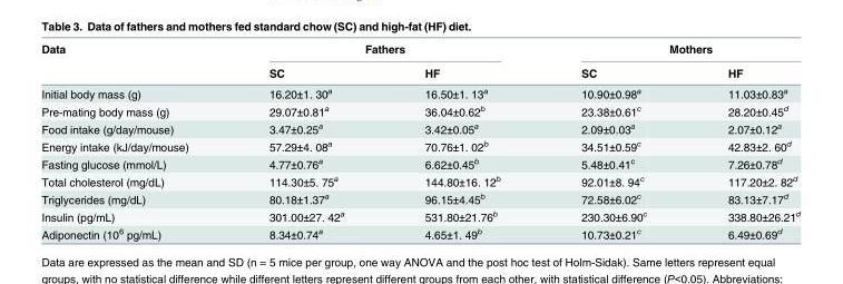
<table><thead><tr><td rowspan="2">Data</td><td colspan="2">Fathers</td><td colspan="2">Mothers</td></tr><tr><td>SC</td><td>HF</td><td>SC</td><td>HF</td></tr></thead><tbody><tr><td>Initial body mass (g)</td><td>16.20±1. 30<sup>a</sup></td><td>16.50±1. 13<sup>a</sup></td><td>10.90±0.98<sup>a</sup></td><td>11.03±0.83<sup>a</sup></td></tr><tr><td>Pre-mating body mass (g)</td><td>29.07±0.81<sup>a</sup></td><td>36.04±0.62<sup>b</sup></td><td>23.38±0.61<sup>c</sup></td><td>28.20±0.45<sup>d</sup></td></tr><tr><td>Food intake (g/day/mouse)</td><td>3.47±0.25<sup>a</sup></td><td>3.42±0.05<sup>a</sup></td><td>2.09±0.03<sup>a</sup></td><td>2.07±0.12<sup>a</sup></td></tr><tr><td>Energy intake (kJ/day/mouse)</td><td>57.29±4. 08<sup>a</sup></td><td>70.76±1. 02<sup>b</sup></td><td>34.51±0.59<sup>c</sup></td><td>42.83±2. 60<sup>d</sup></td></tr><tr><td>Fasting glucose (mmol/L)</td><td>4.77±0.76<sup>a</sup></td><td>6.62±0.45<sup>b</sup></td><td>5.48±0.41<sup>c</sup></td><td>7.26±0.78<sup>d</sup></td></tr><tr><td>Total cholesterol (mg/dL)</td><td>114.30±5. 75<sup>a</sup></td><td>144.80±16. 12<sup>b</sup></td><td>92.01±8. 94<sup>c</sup></td><td>117.20±2. 82<sup>d</sup></td></tr><tr><td>Triglycerides (mg/dL)</td><td>80.18±1.37<sup>a</sup></td><td>96.15±4.45<sup>b</sup></td><td>72.58±6.02<sup>c</sup></td><td>83.13±7.17<sup>d</sup></td></tr><tr><td>Insulin (pg/mL)</td><td>301.00±27. 42<sup>a</sup></td><td>531.80±21.76<sup>b</sup></td><td>230.30±6.90<sup>c</sup></td><td>338.80±26.21<sup>d</sup></td></tr><tr><td>Adiponectin (10<sup>6</sup> pg/mL)</td><td>8.34±0.74<sup>a</sup></td><td>4.65±1. 49<sup>b</sup></td><td>10.73±0.21<sup>c</sup></td><td>6.49±0.69<sup>d</sup></td></tr></tbody></table>